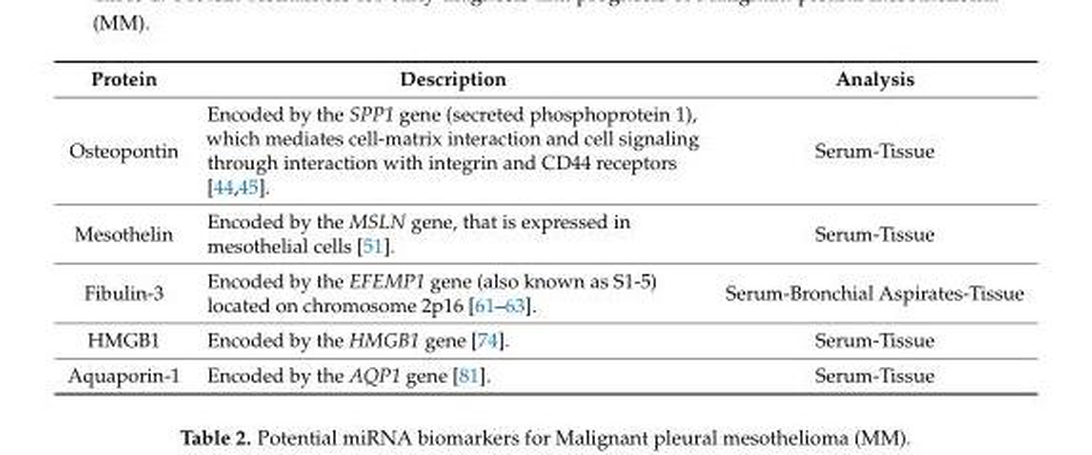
<table><thead><tr><td>Protein</td><td>Description</td><td>Analysis</td></tr></thead><tbody><tr><td>Osteopontin</td><td>Encoded by the SPP1 gene (secreted phosphoprotein 1), which mediates cell-matrix interaction and cell signaling through interaction with integrin and CD44 receptors [44,45].</td><td>Serum-Tissue</td></tr><tr><td>Mesothelin</td><td>Encoded by the MSLN gene, that is expressed in mesothelial cells [51].</td><td>Serum-Tissue</td></tr><tr><td>Fibulin-3</td><td>Encoded by the EFEMP1 gene (also known as S1-5) located on chromosome 2p16 [61–63].</td><td>Serum-Bronchial Aspirates-Tissue</td></tr><tr><td>HMGB1</td><td>Encoded by the HMGB1 gene [74].</td><td>Serum-Tissue</td></tr><tr><td>Aquaporin-1</td><td>Encoded by the AQP1 gene [81].</td><td>Serum-Tissue</td></tr></tbody></table>